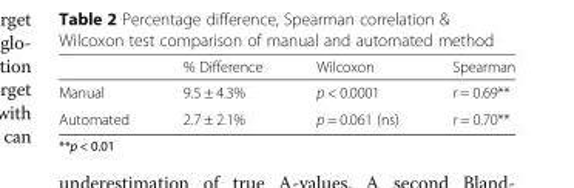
<table><thead><tr><td></td><td>% Difference</td><td>Wilcoxon</td><td>Spearman</td></tr></thead><tbody><tr><td>Manual</td><td>9.5 ± 4.3%</td><td>p &lt; 0.0001</td><td>r = 0.69**</td></tr><tr><td>Automated</td><td>2.7 ± 2.1%</td><td>p = 0.061 (ns)</td><td>r = 0.70**</td></tr></tbody></table>